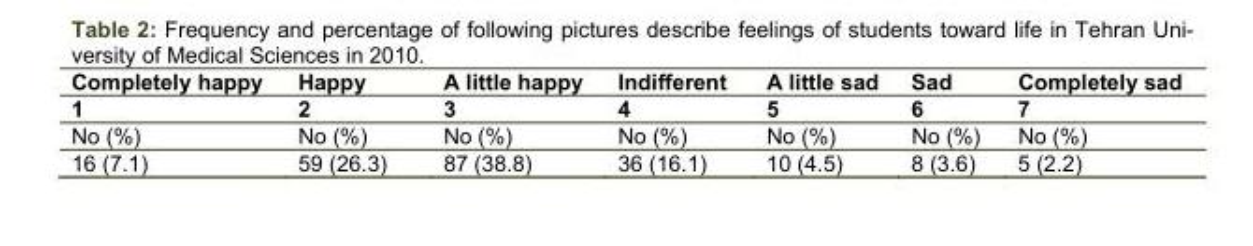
<table><thead><tr><td rowspan="2">Completely happy 1</td><td rowspan="2">Happy 2</td><td rowspan="2">A little happy 3</td><td rowspan="2">Indifferent 4</td><td rowspan="2">A little sad 5</td><td rowspan="2">Sad 6</td><td rowspan="2">Completely sad 7</td></tr><tr></tr></thead><tbody><tr><td>No (%)</td><td>No (%)</td><td>No (%)</td><td>No (%)</td><td>No (%)</td><td>No (%)</td><td>No (%)</td></tr><tr><td>16 (7.1)</td><td>59 (26.3)</td><td>87 (38.8)</td><td>36 (16.1)</td><td>10 (4.5)</td><td>8 (3.6)</td><td>5 (2.2)</td></tr></tbody></table>